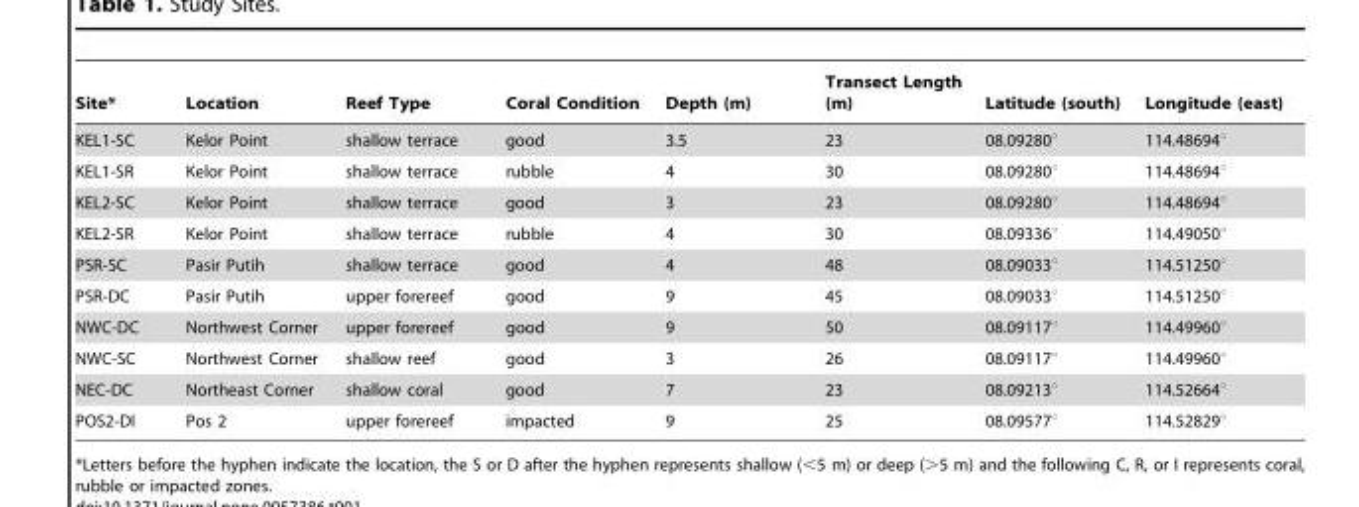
<table><thead><tr><td>Site*</td><td>Location</td><td>Reef Type</td><td>Coral Condition</td><td>Depth (m)</td><td>Transect Length (m)</td><td>Latitude (south)</td><td>Longitude (east)</td></tr></thead><tbody><tr><td>KEL1-SC</td><td>Kelor Point</td><td>shallow terrace</td><td>good</td><td>3.5</td><td>23</td><td>08.09280°</td><td>114.48694°</td></tr><tr><td>KEL1-SR</td><td>Kelor Point</td><td>shallow terrace</td><td>rubble</td><td>4</td><td>30</td><td>08.09280°</td><td>114.48694°</td></tr><tr><td>KEL2-SC</td><td>Kelor Point</td><td>shallow terrace</td><td>good</td><td>3</td><td>23</td><td>08.09280°</td><td>114.48694°</td></tr><tr><td>KEL2-SR</td><td>Kelor Point</td><td>shallow terrace</td><td>rubble</td><td>4</td><td>30</td><td>08.09336°</td><td>114.49050°</td></tr><tr><td>PSR-SC</td><td>Pasir Putih</td><td>shallow terrace</td><td>good</td><td>4</td><td>48</td><td>08.09033°</td><td>114.51250°</td></tr><tr><td>PSR-DC</td><td>Pasir Putih</td><td>upper forereef</td><td>good</td><td>9</td><td>45</td><td>08.09033°</td><td>114.51250°</td></tr><tr><td>NWC-DC</td><td>Northwest Corner</td><td>upper forereef</td><td>good</td><td>9</td><td>50</td><td>08.09117°</td><td>114.49960°</td></tr><tr><td>NWC-SC</td><td>Northwest Corner</td><td>shallow reef</td><td>good</td><td>3</td><td>26</td><td>08.09117°</td><td>114.49960°</td></tr><tr><td>NEC-DC</td><td>Northeast Corner</td><td>shallow coral</td><td>good</td><td>7</td><td>23</td><td>08.09213°</td><td>114.52664°</td></tr><tr><td>POS2-DI</td><td>Pos 2</td><td>upper forereef</td><td>impacted</td><td>9</td><td>25</td><td>08.09577°</td><td>114.52829°</td></tr></tbody></table>